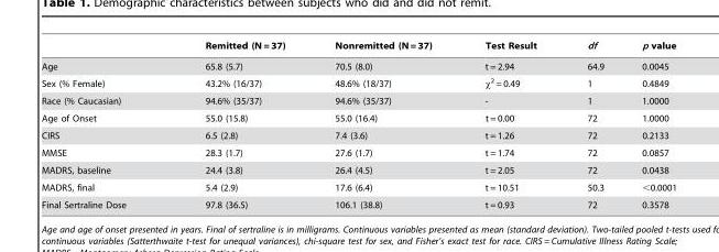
<table><thead><tr><td></td><td>Remitted (N = 37)</td><td>Nonremitted (N = 37)</td><td>Test Result</td><td>df</td><td>p value</td></tr></thead><tbody><tr><td>Age</td><td>65.8 (5.7)</td><td>70.5 (8.0)</td><td>t = 2.94</td><td>64.9</td><td>0.0045</td></tr><tr><td>Sex (% Female)</td><td>43.2% (16/37)</td><td>48.6% (18/37)</td><td>χ<sup>2</sup> = 0.49</td><td>1</td><td>0.4849</td></tr><tr><td>Race (% Caucasian)</td><td>94.6% (35/37)</td><td>94.6% (35/37)</td><td>-</td><td>1</td><td>1.0000</td></tr><tr><td>Age of Onset</td><td>55.0 (15.8)</td><td>55.0 (16.4)</td><td>t = 0.00</td><td>72</td><td>1.0000</td></tr><tr><td>CIRS</td><td>6.5 (2.8)</td><td>7.4 (3.6)</td><td>t = 1.26</td><td>72</td><td>0.2133</td></tr><tr><td>MMSE</td><td>28.3 (1.7)</td><td>27.6 (1.7)</td><td>t = 1.74</td><td>72</td><td>0.0857</td></tr><tr><td>MADRS, baseline</td><td>24.4 (3.8)</td><td>26.4 (4.5)</td><td>t = 2.05</td><td>72</td><td>0.0438</td></tr><tr><td>MADRS, final</td><td>5.4 (2.9)</td><td>17.6 (6.4)</td><td>t = 10.51</td><td>50.3</td><td>&lt;0.0001</td></tr><tr><td>Final Sertraline Dose</td><td>97.8 (36.5)</td><td>106.1 (38.8)</td><td>t = 0.93</td><td>72</td><td>0.3578</td></tr></tbody></table>